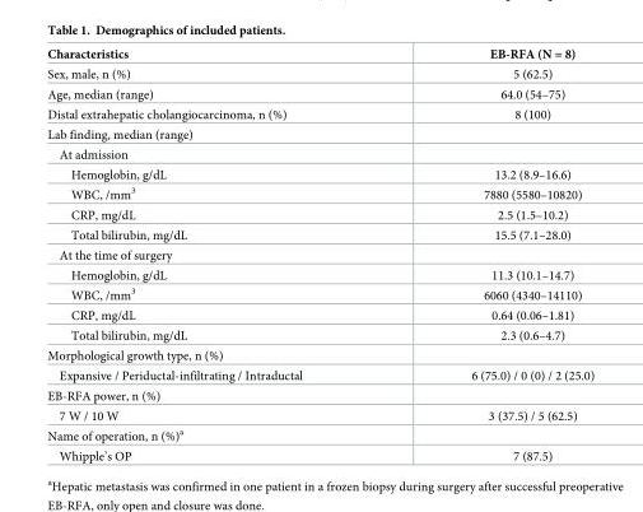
<table><thead><tr><td>Characteristics</td><td>EB-RFA (N = 8)</td></tr></thead><tbody><tr><td>Sex, male, n (%)</td><td>5 (62.5)</td></tr><tr><td>Age, median (range)</td><td>64.0 (54–75)</td></tr><tr><td>Distal extrahepatic cholangiocarcinoma, n (%)</td><td>8 (100)</td></tr><tr><td colspan="2">Lab finding, median (range)</td></tr><tr><td colspan="2">At admission</td></tr><tr><td>Hemoglobin, g/dL</td><td>13.2 (8.9–16.6)</td></tr><tr><td>WBC, /mm<sup>3</sup></td><td>7880 (5580–10820)</td></tr><tr><td>CRP, mg/dL</td><td>2.5 (1.5–10.2)</td></tr><tr><td>Total bilirubin, mg/dL</td><td>15.5 (7.1–28.0)</td></tr><tr><td colspan="2">At the time of surgery</td></tr><tr><td>Hemoglobin, g/dL</td><td>11.3 (10.1–14.7)</td></tr><tr><td>WBC, /mm<sup>3</sup></td><td>6060 (4340–14110)</td></tr><tr><td>CRP, mg/dL</td><td>0.64 (0.06–1.81)</td></tr><tr><td>Total bilirubin, mg/dL</td><td>2.3 (0.6–4.7)</td></tr><tr><td colspan="2">Morphological growth type, n (%)</td></tr><tr><td>Expansive / Periductal-infiltrating / Intraductal</td><td>6 (75.0) / 0 (0) / 2 (25.0)</td></tr><tr><td colspan="2">EB-RFA power, n (%)</td></tr><tr><td>7 W / 10 W</td><td>3 (37.5) / 5 (62.5)</td></tr><tr><td colspan="2">Name of operation, n (%)<sup>a</sup></td></tr><tr><td>Whipple’s OP</td><td>7 (87.5)</td></tr></tbody></table>